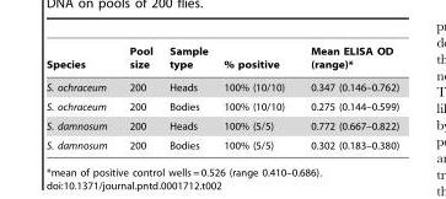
<table><thead><tr><td>Species</td><td>Pool size</td><td>Sample type</td><td>% positive</td><td>Mean ELISA OD (range)*</td></tr></thead><tbody><tr><td>S. ochraceum</td><td>200</td><td>Heads</td><td>100% (10/10)</td><td>0.347 (0.146–0.762)</td></tr><tr><td>S. ochraceum</td><td>200</td><td>Bodies</td><td>100% (10/10)</td><td>0.275 (0.144–0.599)</td></tr><tr><td>S. damnosum</td><td>200</td><td>Heads</td><td>100% (5/5)</td><td>0.772 (0.667–0.822)</td></tr><tr><td>S. damnosum</td><td>200</td><td>Bodies</td><td>100% (5/5)</td><td>0.302 (0.183–0.380)</td></tr></tbody></table>